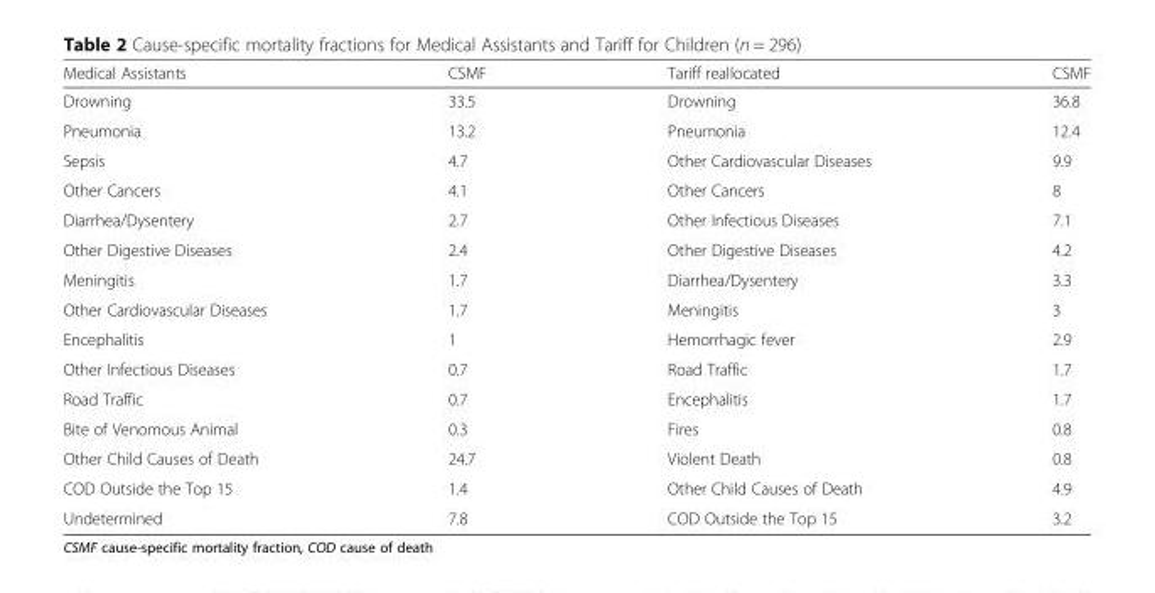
<table><thead><tr><td>Medical Assistants</td><td>CSMF</td><td>Tariff reallocated</td><td>CSMF</td></tr></thead><tbody><tr><td>Drowning</td><td>33.5</td><td>Drowning</td><td>36.8</td></tr><tr><td>Pneumonia</td><td>13.2</td><td>Pneumonia</td><td>12.4</td></tr><tr><td>Sepsis</td><td>4.7</td><td>Other Cardiovascular Diseases</td><td>9.9</td></tr><tr><td>Other Cancers</td><td>4.1</td><td>Other Cancers</td><td>8</td></tr><tr><td>Diarrhea/Dysentery</td><td>2.7</td><td>Other Infectious Diseases</td><td>7.1</td></tr><tr><td>Other Digestive Diseases</td><td>2.4</td><td>Other Digestive Diseases</td><td>4.2</td></tr><tr><td>Meningitis</td><td>1.7</td><td>Diarrhea/Dysentery</td><td>3.3</td></tr><tr><td>Other Cardiovascular Diseases</td><td>1.7</td><td>Meningitis</td><td>3</td></tr><tr><td>Encephalitis</td><td>1</td><td>Hemorrhagic fever</td><td>2.9</td></tr><tr><td>Other Infectious Diseases</td><td>0.7</td><td>Road Traffic</td><td>1.7</td></tr><tr><td>Road Traffic</td><td>0.7</td><td>Encephalitis</td><td>1.7</td></tr><tr><td>Bite of Venomous Animal</td><td>0.3</td><td>Fires</td><td>0.8</td></tr><tr><td>Other Child Causes of Death</td><td>24.7</td><td>Violent Death</td><td>0.8</td></tr><tr><td>COD Outside the Top 15</td><td>1.4</td><td>Other Child Causes of Death</td><td>4.9</td></tr><tr><td>Undetermined</td><td>7.8</td><td>COD Outside the Top 15</td><td>3.2</td></tr></tbody></table>